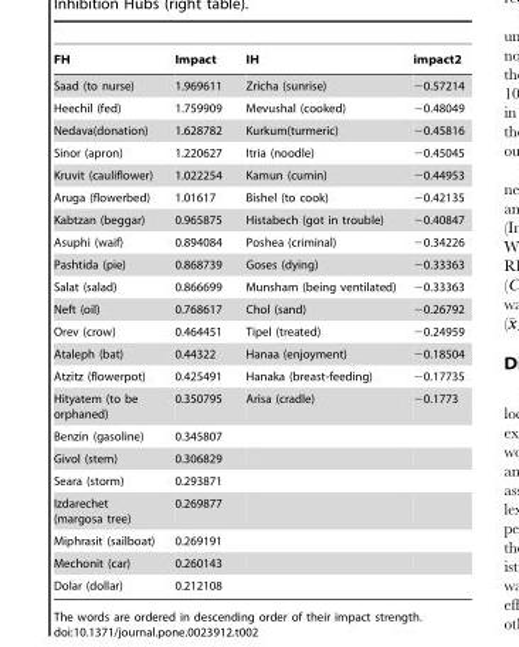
<table><thead><tr><td>FH</td><td>Impact</td><td>IH</td><td>impact2</td></tr></thead><tbody><tr><td>Saad (to nurse)</td><td>1.969611</td><td>Zricha (sunrise)</td><td>−0.57214</td></tr><tr><td>Heechil (fed)</td><td>1.759909</td><td>Mevushal (cooked)</td><td>−0.48049</td></tr><tr><td>Nedava(donation)</td><td>1.628782</td><td>Kurkum(turmeric)</td><td>−0.45816</td></tr><tr><td>Sinor (apron)</td><td>1.220627</td><td>Itria (noodle)</td><td>−0.45045</td></tr><tr><td>Kruvit (cauliflower)</td><td>1.022254</td><td>Kamun (cumin)</td><td>−0.44953</td></tr><tr><td>Aruga (flowerbed)</td><td>1.01617</td><td>Bishel (to cook)</td><td>−0.42135</td></tr><tr><td>Kabtzan (beggar)</td><td>0.965875</td><td>Histabech (got in trouble)</td><td>−0.40847</td></tr><tr><td>Asuphi (waif)</td><td>0.894084</td><td>Poshea (criminal)</td><td>−0.34226</td></tr><tr><td>Pashtida (pie)</td><td>0.868739</td><td>Goses (dying)</td><td>−0.33363</td></tr><tr><td>Salat (salad)</td><td>0.866699</td><td>Munsham (being ventilated)</td><td>−0.33363</td></tr><tr><td>Neft (oil)</td><td>0.768617</td><td>Chol (sand)</td><td>−0.26792</td></tr><tr><td>Orev (crow)</td><td>0.464451</td><td>Tipel (treated)</td><td>−0.24959</td></tr><tr><td>Ataleph (bat)</td><td>0.44322</td><td>Hanaa (enjoyment)</td><td>−0.18504</td></tr><tr><td>Atzitz (flowerpot)</td><td>0.425491</td><td>Hanaka (breast-feeding)</td><td>−0.17735</td></tr><tr><td>Hityatem (to be orphaned)</td><td>0.350795</td><td>Arisa (cradle)</td><td>−0.1773</td></tr><tr><td>Benzin (gasoline)</td><td>0.345807</td><td></td><td></td></tr><tr><td>Givol (stem)</td><td>0.306829</td><td></td><td></td></tr><tr><td>Seara (storm)</td><td>0.293871</td><td></td><td></td></tr><tr><td>Izdarechet (margosa tree)</td><td>0.269877</td><td></td><td></td></tr><tr><td>Miphrasit (sailboat)</td><td>0.269191</td><td></td><td></td></tr><tr><td>Mechonit (car)</td><td>0.260143</td><td></td><td></td></tr><tr><td>Dolar (dollar)</td><td>0.212108</td><td></td><td></td></tr></tbody></table>